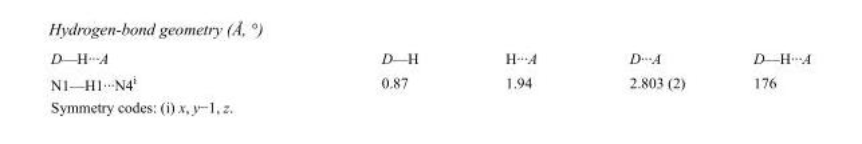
<table><tbody><tr><td>D—H···A</td><td>D—H</td><td>H···A</td><td>D···A</td><td>D—H···A</td></tr><tr><td>N1—H1···N4<sup>i</sup></td><td>0.87</td><td>1.94</td><td>2.803 (2)</td><td>176</td></tr></tbody></table>